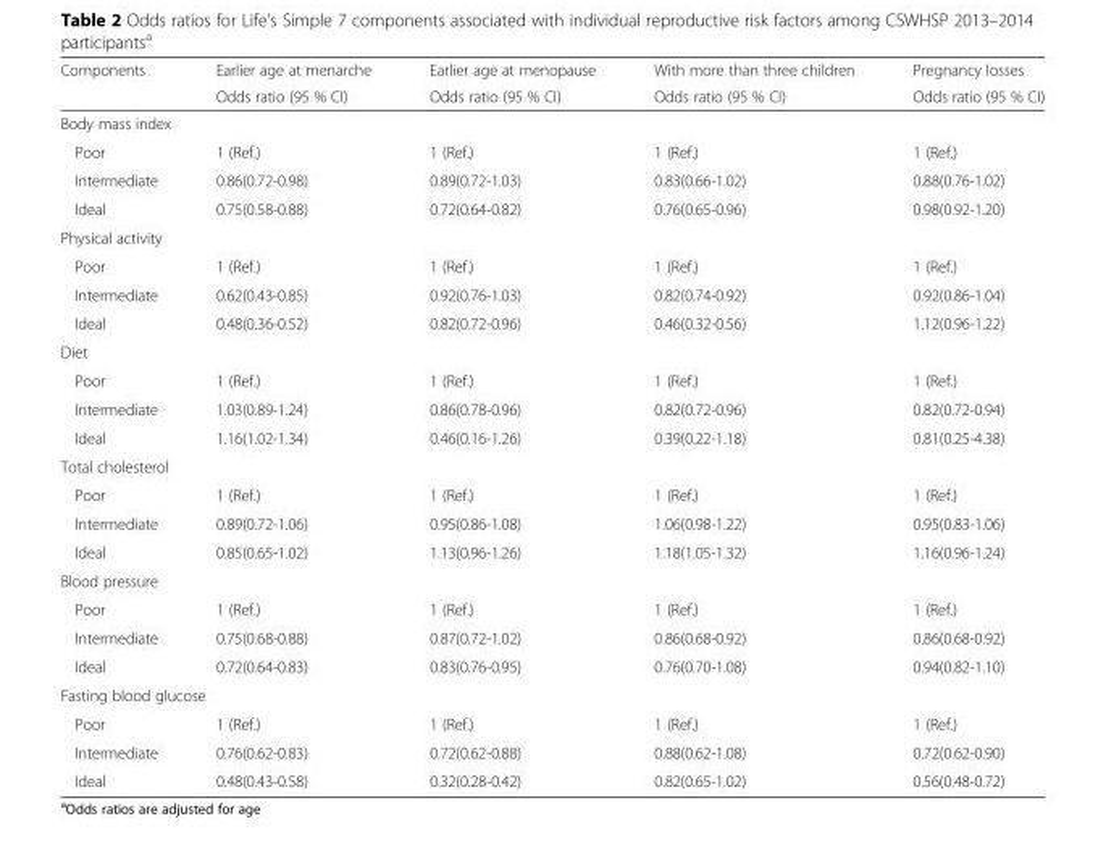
<table><thead><tr><td rowspan="2">Components</td><td rowspan="2">Earlier age at menarche Odds ratio (95 % CI)</td><td rowspan="2">Earlier age at menopause Odds ratio (95 % CI)</td><td rowspan="2">With more than three children Odds ratio (95 % CI)</td><td rowspan="2">Pregnancy losses Odds ratio (95 % CI)</td></tr><tr></tr></thead><tbody><tr><td colspan="5">Body mass index</td></tr><tr><td>Poor</td><td>1 (Ref.)</td><td>1 (Ref.)</td><td>1 (Ref.)</td><td>1 (Ref.)</td></tr><tr><td>Intermediate</td><td>0.86(0.72-0.98)</td><td>0.89(0.72-1.03)</td><td>0.83(0.66-1.02)</td><td>0.88(0.76-1.02)</td></tr><tr><td>Ideal</td><td>0.75(0.58-0.88)</td><td>0.72(0.64-0.82)</td><td>0.76(0.65-0.96)</td><td>0.98(0.92-1.20)</td></tr><tr><td colspan="5">Physical activity</td></tr><tr><td>Poor</td><td>1 (Ref.)</td><td>1 (Ref.)</td><td>1 (Ref.)</td><td>1 (Ref.)</td></tr><tr><td>Intermediate</td><td>0.62(0.43-0.85)</td><td>0.92(0.76-1.03)</td><td>0.82(0.74-0.92)</td><td>0.92(0.86-1.04)</td></tr><tr><td>Ideal</td><td>0.48(0.36-0.52)</td><td>0.82(0.72-0.96)</td><td>0.46(0.32-0.56)</td><td>1.12(0.96-1.22)</td></tr><tr><td colspan="5">Diet</td></tr><tr><td>Poor</td><td>1 (Ref.)</td><td>1 (Ref.)</td><td>1 (Ref.)</td><td>1 (Ref.)</td></tr><tr><td>Intermediate</td><td>1.03(0.89-1.24)</td><td>0.86(0.78-0.96)</td><td>0.82(0.72-0.96)</td><td>0.82(0.72-0.94)</td></tr><tr><td>Ideal</td><td>1.16(1.02-1.34)</td><td>0.46(0.16-1.26)</td><td>0.39(0.22-1.18)</td><td>0.81(0.25-4.38)</td></tr><tr><td colspan="5">Total cholesterol</td></tr><tr><td>Poor</td><td>1 (Ref.)</td><td>1 (Ref.)</td><td>1 (Ref.)</td><td>1 (Ref.)</td></tr><tr><td>Intermediate</td><td>0.89(0.72-1.06)</td><td>0.95(0.86-1.08)</td><td>1.06(0.98-1.22)</td><td>0.95(0.83-1.06)</td></tr><tr><td>Ideal</td><td>0.85(0.65-1.02)</td><td>1.13(0.96-1.26)</td><td>1.18(1.05-1.32)</td><td>1.16(0.96-1.24)</td></tr><tr><td colspan="5">Blood pressure</td></tr><tr><td>Poor</td><td>1 (Ref.)</td><td>1 (Ref.)</td><td>1 (Ref.)</td><td>1 (Ref.)</td></tr><tr><td>Intermediate</td><td>0.75(0.68-0.88)</td><td>0.87(0.72-1.02)</td><td>0.86(0.68-0.92)</td><td>0.86(0.68-0.92)</td></tr><tr><td>Ideal</td><td>0.72(0.64-0.83)</td><td>0.83(0.76-0.95)</td><td>0.76(0.70-1.08)</td><td>0.94(0.82-1.10)</td></tr><tr><td colspan="5">Fasting blood glucose</td></tr><tr><td>Poor</td><td>1 (Ref.)</td><td>1 (Ref.)</td><td>1 (Ref.)</td><td>1 (Ref.)</td></tr><tr><td>Intermediate</td><td>0.76(0.62-0.83)</td><td>0.72(0.62-0.88)</td><td>0.88(0.62-1.08)</td><td>0.72(0.62-0.90)</td></tr><tr><td>Ideal</td><td>0.48(0.43-0.58)</td><td>0.32(0.28-0.42)</td><td>0.82(0.65-1.02)</td><td>0.56(0.48-0.72)</td></tr></tbody></table>